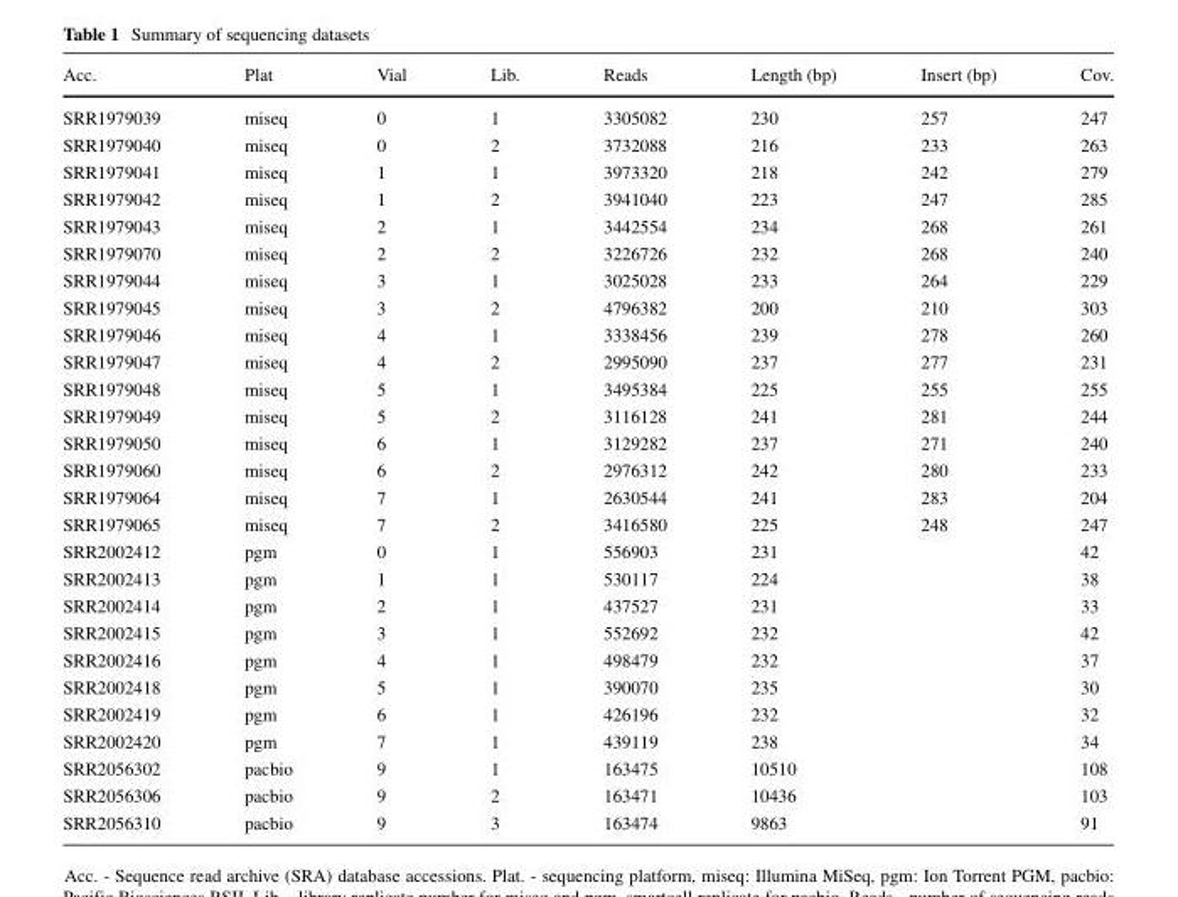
<table><thead><tr><td>Acc.</td><td>Plat</td><td>Vial</td><td>Lib.</td><td>Reads</td><td>Length (bp)</td><td>Insert (bp)</td><td>Cov.</td></tr></thead><tbody><tr><td>SRR1979039</td><td>miseq</td><td>0</td><td>1</td><td>3305082</td><td>230</td><td>257</td><td>247</td></tr><tr><td>SRR1979040</td><td>miseq</td><td>0</td><td>2</td><td>3732088</td><td>216</td><td>233</td><td>263</td></tr><tr><td>SRR1979041</td><td>miseq</td><td>1</td><td>1</td><td>3973320</td><td>218</td><td>242</td><td>279</td></tr><tr><td>SRR1979042</td><td>miseq</td><td>1</td><td>2</td><td>3941040</td><td>223</td><td>247</td><td>285</td></tr><tr><td>SRR1979043</td><td>miseq</td><td>2</td><td>1</td><td>3442554</td><td>234</td><td>268</td><td>261</td></tr><tr><td>SRR1979070</td><td>miseq</td><td>2</td><td>2</td><td>3226726</td><td>232</td><td>268</td><td>240</td></tr><tr><td>SRR1979044</td><td>miseq</td><td>3</td><td>1</td><td>3025028</td><td>233</td><td>264</td><td>229</td></tr><tr><td>SRR1979045</td><td>miseq</td><td>3</td><td>2</td><td>4796382</td><td>200</td><td>210</td><td>303</td></tr><tr><td>SRR1979046</td><td>miseq</td><td>4</td><td>1</td><td>3338456</td><td>239</td><td>278</td><td>260</td></tr><tr><td>SRR1979047</td><td>miseq</td><td>4</td><td>2</td><td>2995090</td><td>237</td><td>277</td><td>231</td></tr><tr><td>SRR1979048</td><td>miseq</td><td>5</td><td>1</td><td>3495384</td><td>225</td><td>255</td><td>255</td></tr><tr><td>SRR1979049</td><td>miseq</td><td>5</td><td>2</td><td>3116128</td><td>241</td><td>281</td><td>244</td></tr><tr><td>SRR1979050</td><td>miseq</td><td>6</td><td>1</td><td>3129282</td><td>237</td><td>271</td><td>240</td></tr><tr><td>SRR1979060</td><td>miseq</td><td>6</td><td>2</td><td>2976312</td><td>242</td><td>280</td><td>233</td></tr><tr><td>SRR1979064</td><td>miseq</td><td>7</td><td>1</td><td>2630544</td><td>241</td><td>283</td><td>204</td></tr><tr><td>SRR1979065</td><td>miseq</td><td>7</td><td>2</td><td>3416580</td><td>225</td><td>248</td><td>247</td></tr><tr><td>SRR2002412</td><td>pgm</td><td>0</td><td>1</td><td>556903</td><td>231</td><td></td><td>42</td></tr><tr><td>SRR2002413</td><td>pgm</td><td>1</td><td>1</td><td>530117</td><td>224</td><td></td><td>38</td></tr><tr><td>SRR2002414</td><td>pgm</td><td>2</td><td>1</td><td>437527</td><td>231</td><td></td><td>33</td></tr><tr><td>SRR2002415</td><td>pgm</td><td>3</td><td>1</td><td>552692</td><td>232</td><td></td><td>42</td></tr><tr><td>SRR2002416</td><td>pgm</td><td>4</td><td>1</td><td>498479</td><td>232</td><td></td><td>37</td></tr><tr><td>SRR2002418</td><td>pgm</td><td>5</td><td>1</td><td>390070</td><td>235</td><td></td><td>30</td></tr><tr><td>SRR2002419</td><td>pgm</td><td>6</td><td>1</td><td>426196</td><td>232</td><td></td><td>32</td></tr><tr><td>SRR2002420</td><td>pgm</td><td>7</td><td>1</td><td>439119</td><td>238</td><td></td><td>34</td></tr><tr><td>SRR2056302</td><td>pacbio</td><td>9</td><td>1</td><td>163475</td><td>10510</td><td></td><td>108</td></tr><tr><td>SRR2056306</td><td>pacbio</td><td>9</td><td>2</td><td>163471</td><td>10436</td><td></td><td>103</td></tr><tr><td>SRR2056310</td><td>pacbio</td><td>9</td><td>3</td><td>163474</td><td>9863</td><td></td><td>91</td></tr></tbody></table>